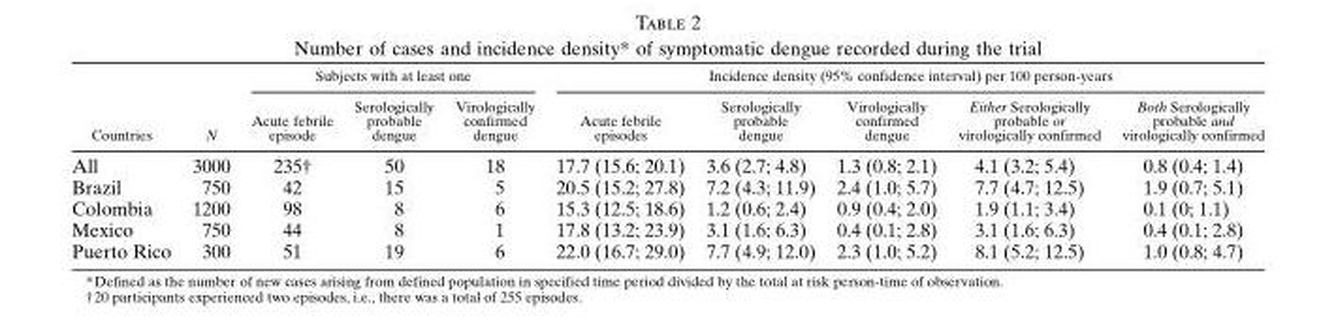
<table><thead><tr><td rowspan="2">Countries</td><td rowspan="2">N</td><td colspan="3">Subjects with at least one</td><td colspan="5">Incidence density (95% confidence interval) per 100 person-years</td></tr><tr><td>Acute febrile episode</td><td>Serologically probable dengue</td><td>Virologically confirmed dengue</td><td>Acute febrile episodes</td><td>Serologically probable dengue</td><td>Virologically confirmed dengue</td><td>Either Serologically probable or virologically confirmed</td><td>Both Serologically probable and virologically confirmed</td></tr></thead><tbody><tr><td>All</td><td>3000</td><td>235†</td><td>50</td><td>18</td><td>17.7 (15.6; 20.1)</td><td>3.6 (2.7; 4.8)</td><td>1.3 (0.8; 2.1)</td><td>4.1 (3.2; 5.4)</td><td>0.8 (0.4; 1.4)</td></tr><tr><td>Brazil</td><td>750</td><td>42</td><td>15</td><td>5</td><td>20.5 (15.2; 27.8)</td><td>7.2 (4.3; 11.9)</td><td>2.4 (1.0; 5.7)</td><td>7.7 (4.7; 12.5)</td><td>1.9 (0.7; 5.1)</td></tr><tr><td>Colombia</td><td>1200</td><td>98</td><td>8</td><td>6</td><td>15.3 (12.5; 18.6)</td><td>1.2 (0.6; 2.4)</td><td>0.9 (0.4; 2.0)</td><td>1.9 (1.1; 3.4)</td><td>0.1 (0; 1.1)</td></tr><tr><td>Mexico</td><td>750</td><td>44</td><td>8</td><td>1</td><td>17.8 (13.2; 23.9)</td><td>3.1 (1.6; 6.3)</td><td>0.4 (0.1; 2.8)</td><td>3.1 (1.6; 6.3)</td><td>0.4 (0.1; 2.8)</td></tr><tr><td>Puerto Rico</td><td>300</td><td>51</td><td>19</td><td>6</td><td>22.0 (16.7; 29.0)</td><td>7.7 (4.9; 12.0)</td><td>2.3 (1.0; 5.2)</td><td>8.1 (5.2; 12.5)</td><td>1.0 (0.8; 4.7)</td></tr></tbody></table>